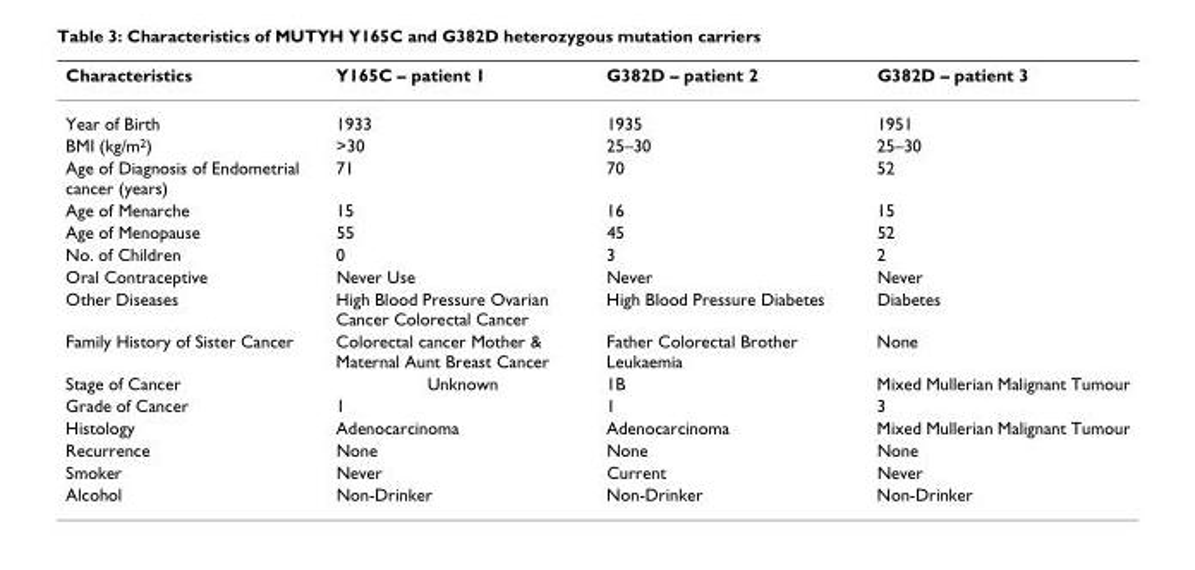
<table><thead><tr><td>Characteristics</td><td>Y165C – patient 1</td><td>G382D – patient 2</td><td>G382D – patient 3</td></tr></thead><tbody><tr><td>Year of Birth</td><td>1933</td><td>1935</td><td>1951</td></tr><tr><td>BMI (kg/m<sup>2</sup>)</td><td>&gt;30</td><td>25–30</td><td>25–30</td></tr><tr><td>Age of Diagnosis of Endometrial cancer (years)</td><td>71</td><td>70</td><td>52</td></tr><tr><td>Age of Menarche</td><td>15</td><td>16</td><td>15</td></tr><tr><td>Age of Menopause</td><td>55</td><td>45</td><td>52</td></tr><tr><td>No. of Children</td><td>0</td><td>3</td><td>2</td></tr><tr><td>Oral Contraceptive</td><td>Never Use</td><td>Never</td><td>Never</td></tr><tr><td>Other Diseases</td><td>High Blood Pressure Ovarian Cancer Colorectal Cancer</td><td>High Blood Pressure Diabetes</td><td>Diabetes</td></tr><tr><td>Family History of Sister Cancer</td><td>Colorectal cancer Mother &amp; Maternal Aunt Breast Cancer</td><td>Father Colorectal Brother Leukaemia</td><td>None</td></tr><tr><td>Stage of Cancer</td><td>Unknown</td><td>1B</td><td>Mixed Mullerian Malignant Tumour</td></tr><tr><td>Grade of Cancer</td><td>1</td><td>1</td><td>3</td></tr><tr><td>Histology</td><td>Adenocarcinoma</td><td>Adenocarcinoma</td><td>Mixed Mullerian Malignant Tumour</td></tr><tr><td>Recurrence</td><td>None</td><td>None</td><td>None</td></tr><tr><td>Smoker</td><td>Never</td><td>Current</td><td>Never</td></tr><tr><td>Alcohol</td><td>Non-Drinker</td><td>Non-Drinker</td><td>Non-Drinker</td></tr></tbody></table>